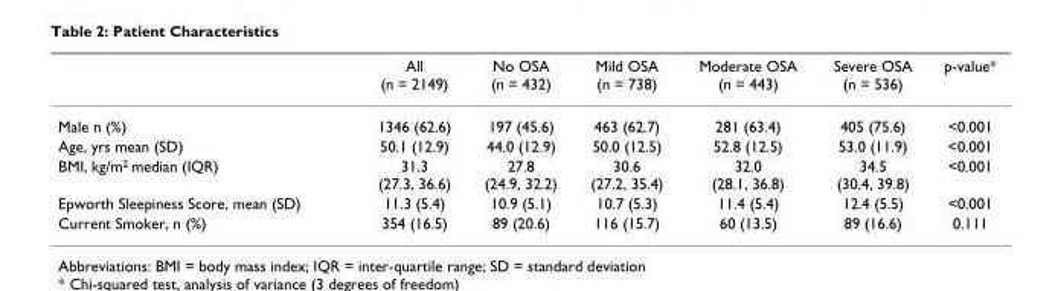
<table><thead><tr><td></td><td>All (n = 2149)</td><td>No OSA (n = 432)</td><td>Mild OSA (n = 738)</td><td>Moderate OSA (n = 443)</td><td>Severe OSA (n = 536)</td><td>p-value*</td></tr></thead><tbody><tr><td>Male n (%)</td><td>1346 (62.6)</td><td>197 (45.6)</td><td>463 (62.7)</td><td>281 (63.4)</td><td>405 (75.6)</td><td>&lt;0.001</td></tr><tr><td>Age, yrs mean (SD)</td><td>50.1 (12.9)</td><td>44.0 (12.9)</td><td>50.0 (12.5)</td><td>52.8 (12.5)</td><td>53.0 (11.9)</td><td>&lt;0.001</td></tr><tr><td>BMI, kg/m<sup>2</sup> median (IQR)</td><td>31.3 (27.3, 36.6)</td><td>27.8 (24.9, 32.2)</td><td>30.6 (27.2, 35.4)</td><td>32.0 (28.1, 36.8)</td><td>34.5 (30.4, 39.8)</td><td>&lt;0.001</td></tr><tr><td>Epworth Sleepiness Score, mean (SD)</td><td>11.3 (5.4)</td><td>10.9 (5.1)</td><td>10.7 (5.3)</td><td>11.4 (5.4)</td><td>12.4 (5.5)</td><td>&lt;0.001</td></tr><tr><td>Current Smoker, n (%)</td><td>354 (16.5)</td><td>89 (20.6)</td><td>116 (15.7)</td><td>60 (13.5)</td><td>89 (16.6)</td><td>0.111</td></tr></tbody></table>